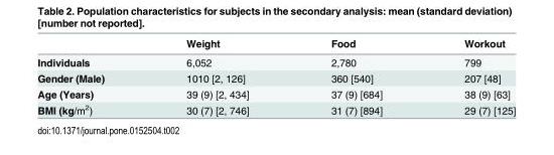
<table><thead><tr><td></td><td>Weight</td><td>Food</td><td>Workout</td></tr></thead><tbody><tr><td>Individuals</td><td>6,052</td><td>2,780</td><td>799</td></tr><tr><td>Gender (Male)</td><td>1010 [2, 126]</td><td>360 [540]</td><td>207 [48]</td></tr><tr><td>Age (Years)</td><td>39 (9) [2, 434]</td><td>37 (9) [684]</td><td>38 (9) [63]</td></tr><tr><td>BMI (kg/m<sup>2</sup>)</td><td>30 (7) [2, 746]</td><td>31 (7) [894]</td><td>29 (7) [125]</td></tr></tbody></table>